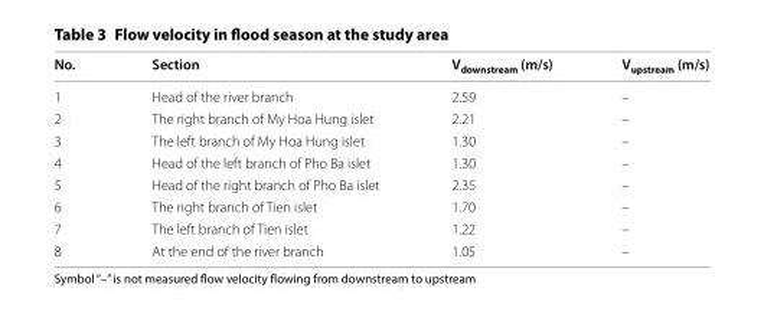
<table><thead><tr><td>No.</td><td>Section</td><td>V<sub>downstream</sub> (m/s)</td><td>V<sub>upstream</sub> (m/s)</td></tr></thead><tbody><tr><td>1</td><td>Head of the river branch</td><td>2.59</td><td>–</td></tr><tr><td>2</td><td>The right branch of My Hoa Hung islet</td><td>2.21</td><td>–</td></tr><tr><td>3</td><td>The left branch of My Hoa Hung islet</td><td>1.30</td><td>–</td></tr><tr><td>4</td><td>Head of the left branch of Pho Ba islet</td><td>1.30</td><td>–</td></tr><tr><td>5</td><td>Head of the right branch of Pho Ba islet</td><td>2.35</td><td>–</td></tr><tr><td>6</td><td>The right branch of Tien islet</td><td>1.70</td><td>–</td></tr><tr><td>7</td><td>The left branch of Tien islet</td><td>1.22</td><td>–</td></tr><tr><td>8</td><td>At the end of the river branch</td><td>1.05</td><td>–</td></tr></tbody></table>